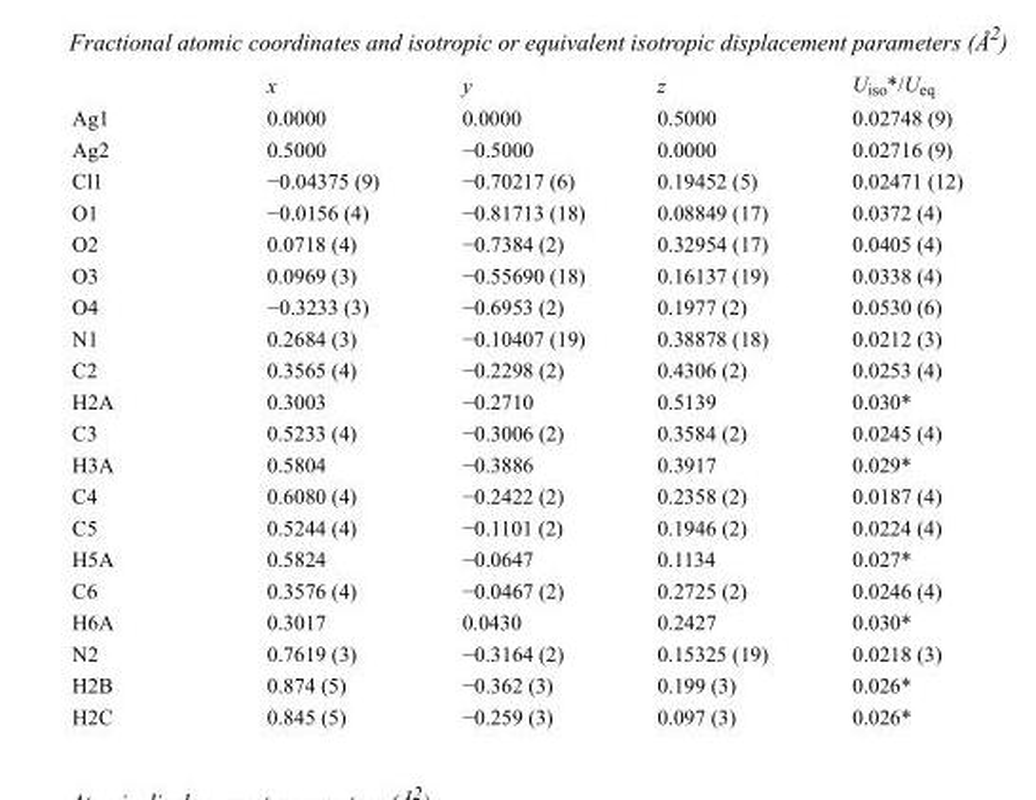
<table><thead><tr><td></td><td>x</td><td>y</td><td>z</td><td>U<sub>iso</sub>*/U<sub>eq</sub></td></tr></thead><tbody><tr><td>Ag1</td><td>0.0000</td><td>0.0000</td><td>0.5000</td><td>0.02748 (9)</td></tr><tr><td>Ag2</td><td>0.5000</td><td>−0.5000</td><td>0.0000</td><td>0.02716 (9)</td></tr><tr><td>Cl1</td><td>−0.04375 (9)</td><td>−0.70217 (6)</td><td>0.19452 (5)</td><td>0.02471 (12)</td></tr><tr><td>O1</td><td>−0.0156 (4)</td><td>−0.81713 (18)</td><td>0.08849 (17)</td><td>0.0372 (4)</td></tr><tr><td>O2</td><td>0.0718 (4)</td><td>−0.7384 (2)</td><td>0.32954 (17)</td><td>0.0405 (4)</td></tr><tr><td>O3</td><td>0.0969 (3)</td><td>−0.55690 (18)</td><td>0.16137 (19)</td><td>0.0338 (4)</td></tr><tr><td>O4</td><td>−0.3233 (3)</td><td>−0.6953 (2)</td><td>0.1977 (2)</td><td>0.0530 (6)</td></tr><tr><td>N1</td><td>0.2684 (3)</td><td>−0.10407 (19)</td><td>0.38878 (18)</td><td>0.0212 (3)</td></tr><tr><td>C2</td><td>0.3565 (4)</td><td>−0.2298 (2)</td><td>0.4306 (2)</td><td>0.0253 (4)</td></tr><tr><td>H2A</td><td>0.3003</td><td>−0.2710</td><td>0.5139</td><td>0.030*</td></tr><tr><td>C3</td><td>0.5233 (4)</td><td>−0.3006 (2)</td><td>0.3584 (2)</td><td>0.0245 (4)</td></tr><tr><td>H3A</td><td>0.5804</td><td>−0.3886</td><td>0.3917</td><td>0.029*</td></tr><tr><td>C4</td><td>0.6080 (4)</td><td>−0.2422 (2)</td><td>0.2358 (2)</td><td>0.0187 (4)</td></tr><tr><td>C5</td><td>0.5244 (4)</td><td>−0.1101 (2)</td><td>0.1946 (2)</td><td>0.0224 (4)</td></tr><tr><td>H5A</td><td>0.5824</td><td>−0.0647</td><td>0.1134</td><td>0.027*</td></tr><tr><td>C6</td><td>0.3576 (4)</td><td>−0.0467 (2)</td><td>0.2725 (2)</td><td>0.0246 (4)</td></tr><tr><td>H6A</td><td>0.3017</td><td>0.0430</td><td>0.2427</td><td>0.030*</td></tr><tr><td>N2</td><td>0.7619 (3)</td><td>−0.3164 (2)</td><td>0.15325 (19)</td><td>0.0218 (3)</td></tr><tr><td>H2B</td><td>0.874 (5)</td><td>−0.362 (3)</td><td>0.199 (3)</td><td>0.026*</td></tr><tr><td>H2C</td><td>0.845 (5)</td><td>−0.259 (3)</td><td>0.097 (3)</td><td>0.026*</td></tr></tbody></table>